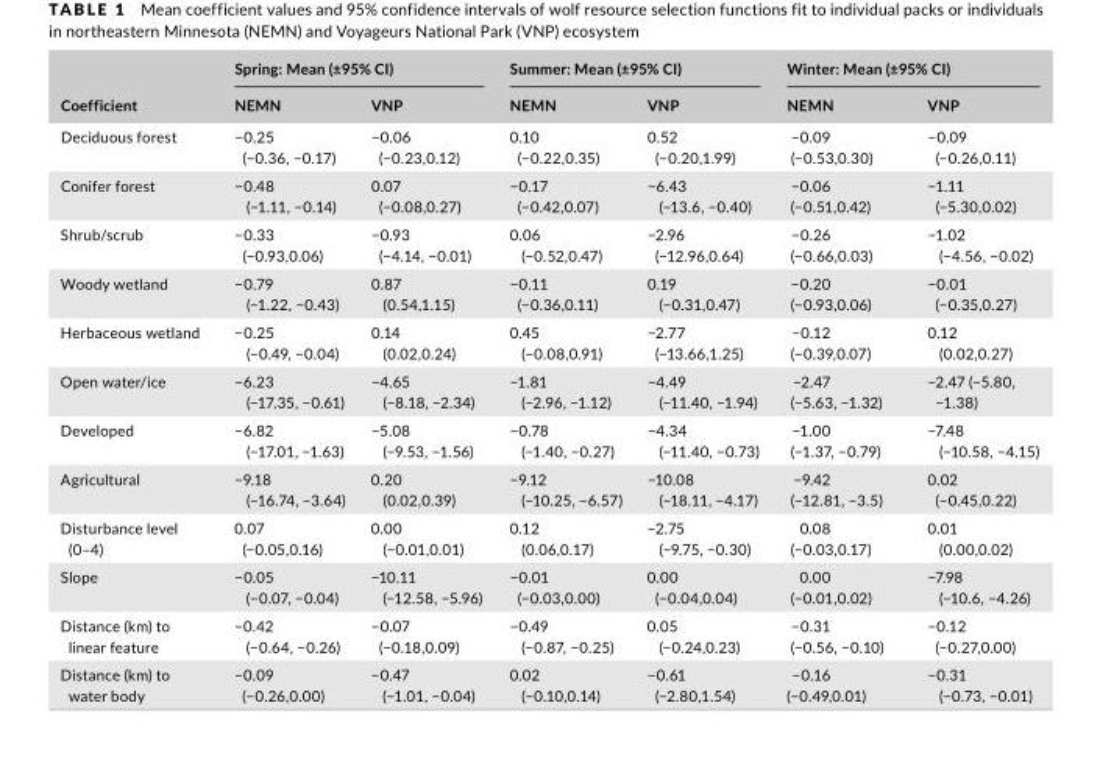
<table><thead><tr><td rowspan="2">Coefficient</td><td colspan="2">Spring: Mean (±95% CI)</td><td colspan="2">Summer: Mean (±95% CI)</td><td colspan="2">Winter: Mean (±95% CI)</td></tr><tr><td>NEMN</td><td>VNP</td><td>NEMN</td><td>VNP</td><td>NEMN</td><td>VNP</td></tr></thead><tbody><tr><td>Deciduous forest</td><td>−0.25 (−0.36, −0.17)</td><td>−0.06 (−0.23,0.12)</td><td>0.10 (−0.22,0.35)</td><td>0.52 (−0.20,1.99)</td><td>−0.09 (−0.53,0.30)</td><td>−0.09 (−0.26,0.11)</td></tr><tr><td>Conifer forest</td><td>−0.48 (−1.11, −0.14)</td><td>0.07 (−0.08,0.27)</td><td>−0.17 (−0.42,0.07)</td><td>−6.43 (−13.6, −0.40)</td><td>−0.06 (−0.51,0.42)</td><td>−1.11 (−5.30,0.02)</td></tr><tr><td>Shrub/scrub</td><td>−0.33 (−0.93,0.06)</td><td>−0.93 (−4.14, −0.01)</td><td>0.06 (−0.52,0.47)</td><td>−2.96 (−12.96,0.64)</td><td>−0.26 (−0.66,0.03)</td><td>−1.02 (−4.56, −0.02)</td></tr><tr><td>Woody wetland</td><td>−0.79 (−1.22, −0.43)</td><td>0.87 (0.54,1.15)</td><td>−0.11 (−0.36,0.11)</td><td>0.19 (−0.31,0.47)</td><td>−0.20 (−0.93,0.06)</td><td>−0.01 (−0.35,0.27)</td></tr><tr><td>Herbaceous wetland</td><td>−0.25 (−0.49, −0.04)</td><td>0.14 (0.02,0.24)</td><td>0.45 (−0.08,0.91)</td><td>−2.77 (−13.66,1.25)</td><td>−0.12 (−0.39,0.07)</td><td>0.12 (0.02,0.27)</td></tr><tr><td>Open water/ice</td><td>−6.23 (−17.35, −0.61)</td><td>−4.65 (−8.18, −2.34)</td><td>−1.81 (−2.96, −1.12)</td><td>−4.49 (−11.40, −1.94)</td><td>−2.47 (−5.63, −1.32)</td><td>−2.47 (−5.80, −1.38)</td></tr><tr><td>Developed</td><td>−6.82 (−17.01, −1.63)</td><td>−5.08 (−9.53, −1.56)</td><td>−0.78 (−1.40, −0.27)</td><td>−4.34 (−11.40, −0.73)</td><td>−1.00 (−1.37, −0.79)</td><td>−7.48 (−10.58, −4.15)</td></tr><tr><td>Agricultural</td><td>−9.18 (−16.74, −3.64)</td><td>0.20 (0.02,0.39)</td><td>−9.12 (−10.25, −6.57)</td><td>−10.08 (−18.11, −4.17)</td><td>−9.42 (−12.81, −3.5)</td><td>0.02 (−0.45,0.22)</td></tr><tr><td>Disturbance level (0–4)</td><td>0.07 (−0.05,0.16)</td><td>0.00 (−0.01,0.01)</td><td>0.12 (0.06,0.17)</td><td>−2.75 (−9.75, −0.30)</td><td>0.08 (−0.03,0.17)</td><td>0.01 (0.00,0.02)</td></tr><tr><td>Slope</td><td>−0.05 (−0.07, −0.04)</td><td>−10.11 (−12.58, −5.96)</td><td>−0.01 (−0.03,0.00)</td><td>0.00 (−0.04,0.04)</td><td>0.00 (−0.01,0.02)</td><td>−7.98 (−10.6, −4.26)</td></tr><tr><td>Distance (km) to linear feature</td><td>−0.42 (−0.64, −0.26)</td><td>−0.07 (−0.18,0.09)</td><td>−0.49 (−0.87, −0.25)</td><td>0.05 (−0.24,0.23)</td><td>−0.31 (−0.56, −0.10)</td><td>−0.12 (−0.27,0.00)</td></tr><tr><td>Distance (km) to water body</td><td>−0.09 (−0.26,0.00)</td><td>−0.47 (−1.01, −0.04)</td><td>0.02 (−0.10,0.14)</td><td>−0.61 (−2.80,1.54)</td><td>−0.16 (−0.49,0.01)</td><td>−0.31 (−0.73, −0.01)</td></tr></tbody></table>